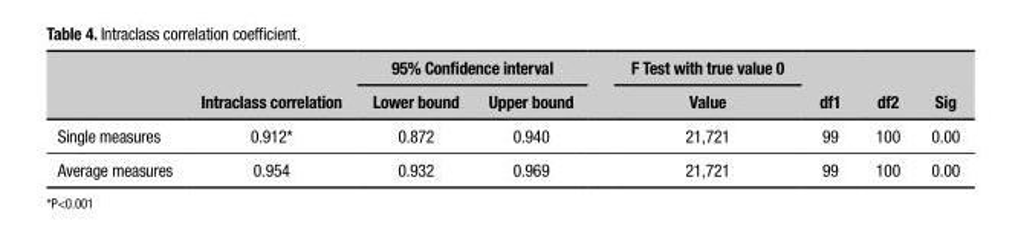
<table><thead><tr><td rowspan="2"></td><td rowspan="2">Intraclass correlation</td><td colspan="2">95% Confidence interval</td><td rowspan="2">F Test with true value 0 Value</td><td rowspan="2">df1</td><td rowspan="2">df2</td><td rowspan="2">Sig</td></tr><tr><td>Lower bound</td><td>Upper bound</td></tr></thead><tbody><tr><td>Single measures</td><td>0.912*</td><td>0.872</td><td>0.940</td><td>21,721</td><td>99</td><td>100</td><td>0.00</td></tr><tr><td>Average measures</td><td>0.954</td><td>0.932</td><td>0.969</td><td>21,721</td><td>99</td><td>100</td><td>0.00</td></tr></tbody></table>